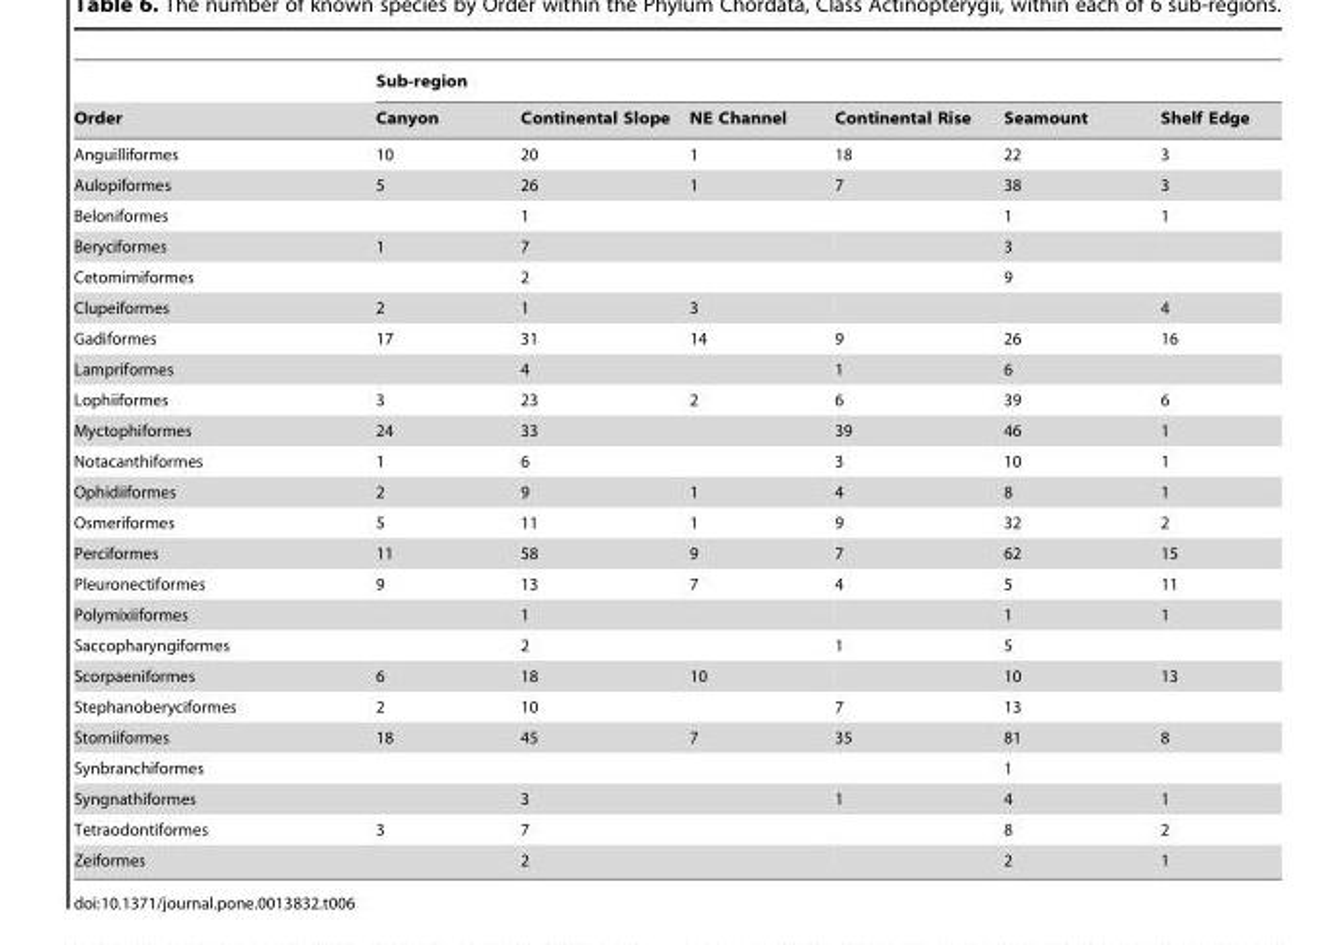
<table><thead><tr><td rowspan="2">Order</td><td colspan="6">Sub-region</td></tr><tr><td>Canyon</td><td>Continental Slope</td><td>NE Channel</td><td>Continental Rise</td><td>Seamount</td><td>Shelf Edge</td></tr></thead><tbody><tr><td>Anguilliformes</td><td>10</td><td>20</td><td>1</td><td>18</td><td>22</td><td>3</td></tr><tr><td>Aulopiformes</td><td>5</td><td>26</td><td>1</td><td>7</td><td>38</td><td>3</td></tr><tr><td>Beloniformes</td><td></td><td>1</td><td></td><td></td><td>1</td><td>1</td></tr><tr><td>Beryciformes</td><td>1</td><td>7</td><td></td><td></td><td>3</td><td></td></tr><tr><td>Cetomimiformes</td><td></td><td>2</td><td></td><td></td><td>9</td><td></td></tr><tr><td>Clupeiformes</td><td>2</td><td>1</td><td>3</td><td></td><td></td><td>4</td></tr><tr><td>Gadiformes</td><td>17</td><td>31</td><td>14</td><td>9</td><td>26</td><td>16</td></tr><tr><td>Lampriformes</td><td></td><td>4</td><td></td><td>1</td><td>6</td><td></td></tr><tr><td>Lophiiformes</td><td>3</td><td>23</td><td>2</td><td>6</td><td>39</td><td>6</td></tr><tr><td>Myctophiformes</td><td>24</td><td>33</td><td></td><td>39</td><td>46</td><td>1</td></tr><tr><td>Notacanthiformes</td><td>1</td><td>6</td><td></td><td>3</td><td>10</td><td>1</td></tr><tr><td>Ophidiiformes</td><td>2</td><td>9</td><td>1</td><td>4</td><td>8</td><td>1</td></tr><tr><td>Osmeriformes</td><td>5</td><td>11</td><td>1</td><td>9</td><td>32</td><td>2</td></tr><tr><td>Perciformes</td><td>11</td><td>58</td><td>9</td><td>7</td><td>62</td><td>15</td></tr><tr><td>Pleuronectiformes</td><td>9</td><td>13</td><td>7</td><td>4</td><td>5</td><td>11</td></tr><tr><td>Polymixiiformes</td><td></td><td>1</td><td></td><td></td><td>1</td><td>1</td></tr><tr><td>Saccopharyngiformes</td><td></td><td>2</td><td></td><td>1</td><td>5</td><td></td></tr><tr><td>Scorpaeniformes</td><td>6</td><td>18</td><td>10</td><td></td><td>10</td><td>13</td></tr><tr><td>Stephanoberyciformes</td><td>2</td><td>10</td><td></td><td>7</td><td>13</td><td></td></tr><tr><td>Stomiiformes</td><td>18</td><td>45</td><td>7</td><td>35</td><td>81</td><td>8</td></tr><tr><td>Synbranchiformes</td><td></td><td></td><td></td><td></td><td>1</td><td></td></tr><tr><td>Syngnathiformes</td><td></td><td>3</td><td></td><td>1</td><td>4</td><td>1</td></tr><tr><td>Tetraodontiformes</td><td>3</td><td>7</td><td></td><td></td><td>8</td><td>2</td></tr><tr><td>Zeiformes</td><td></td><td>2</td><td></td><td></td><td>2</td><td>1</td></tr></tbody></table>